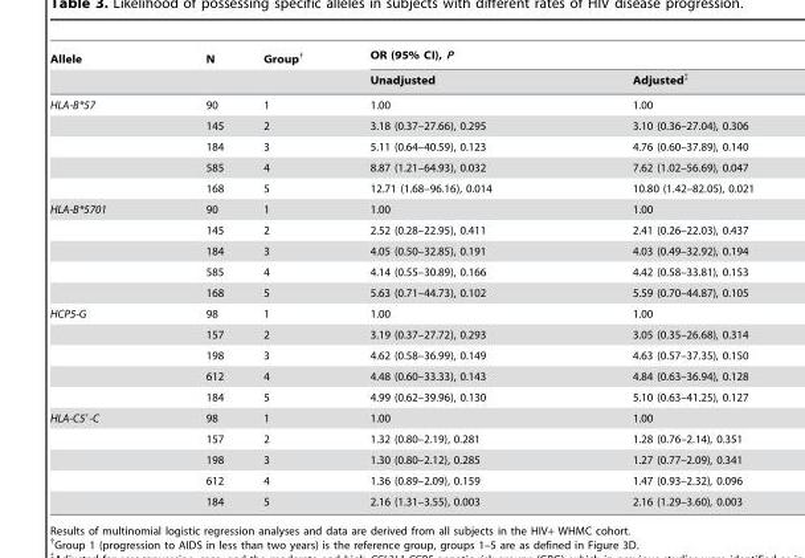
<table><thead><tr><td rowspan="2">Allele</td><td rowspan="2">N</td><td rowspan="2">Group†</td><td colspan="2">OR (95% CI), P</td></tr><tr><td>Unadjusted</td><td>Adjusted‡</td></tr></thead><tbody><tr><td rowspan="5">HLA-B*57</td><td>90</td><td>1</td><td>1.00</td><td>1.00</td></tr><tr><td>145</td><td>2</td><td>3.18 (0.37–27.66), 0.295</td><td>3.10 (0.36–27.04), 0.306</td></tr><tr><td>184</td><td>3</td><td>5.11 (0.64–40.59), 0.123</td><td>4.76 (0.60–37.89), 0.140</td></tr><tr><td>585</td><td>4</td><td>8.87 (1.21–64.93), 0.032</td><td>7.62 (1.02–56.69), 0.047</td></tr><tr><td>168</td><td>5</td><td>12.71 (1.68–96.16), 0.014</td><td>10.80 (1.42–82.05), 0.021</td></tr><tr><td rowspan="5">HLA-B*5701</td><td>90</td><td>1</td><td>1.00</td><td>1.00</td></tr><tr><td>145</td><td>2</td><td>2.52 (0.28–22.95), 0.411</td><td>2.41 (0.26–22.03), 0.437</td></tr><tr><td>184</td><td>3</td><td>4.05 (0.50–32.85), 0.191</td><td>4.03 (0.49–32.92), 0.194</td></tr><tr><td>585</td><td>4</td><td>4.14 (0.55–30.89), 0.166</td><td>4.42 (0.58–33.81), 0.153</td></tr><tr><td>168</td><td>5</td><td>5.63 (0.71–44.73), 0.102</td><td>5.59 (0.70–44.87), 0.105</td></tr><tr><td rowspan="5">HCP5-G</td><td>98</td><td>1</td><td>1.00</td><td>1.00</td></tr><tr><td>157</td><td>2</td><td>3.19 (0.37–27.72), 0.293</td><td>3.05 (0.35–26.68), 0.314</td></tr><tr><td>198</td><td>3</td><td>4.62 (0.58–36.99), 0.149</td><td>4.63 (0.57–37.35), 0.150</td></tr><tr><td>612</td><td>4</td><td>4.48 (0.60–33.33), 0.143</td><td>4.84 (0.63–36.94), 0.128</td></tr><tr><td>184</td><td>5</td><td>4.99 (0.62–39.96), 0.130</td><td>5.10 (0.63–41.25), 0.127</td></tr><tr><td rowspan="5">HLA-C5′-C</td><td>98</td><td>1</td><td>1.00</td><td>1.00</td></tr><tr><td>157</td><td>2</td><td>1.32 (0.80–2.19), 0.281</td><td>1.28 (0.76–2.14), 0.351</td></tr><tr><td>198</td><td>3</td><td>1.30 (0.80–2.12), 0.285</td><td>1.27 (0.77–2.09), 0.341</td></tr><tr><td>612</td><td>4</td><td>1.36 (0.89–2.09), 0.159</td><td>1.47 (0.93–2.32), 0.096</td></tr><tr><td>184</td><td>5</td><td>2.16 (1.31–3.55), 0.003</td><td>2.16 (1.29–3.60), 0.003</td></tr></tbody></table>